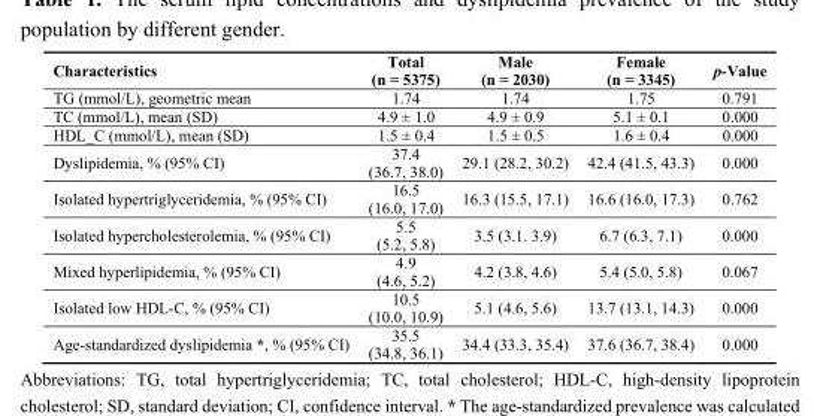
<table><thead><tr><td>Characteristics</td><td>Total (n = 5375)</td><td>Male (n = 2030)</td><td>Female (n = 3345)</td><td>p-Value</td></tr></thead><tbody><tr><td>TG (mmol/L), geometric mean</td><td>1.74</td><td>1.74</td><td>1.75</td><td>0.791</td></tr><tr><td>TC (mmol/L), mean (SD)</td><td>4.9 ± 1.0</td><td>4.9 ± 0.9</td><td>5.1 ± 0.1</td><td>0.000</td></tr><tr><td>HDL_C (mmol/L), mean (SD)</td><td>1.5 ± 0.4</td><td>1.5 ± 0.5</td><td>1.6 ± 0.4</td><td>0.000</td></tr><tr><td>Dyslipidemia, % (95% CI)</td><td>37.4 (36.7, 38.0)</td><td>29.1 (28.2, 30.2)</td><td>42.4 (41.5, 43.3)</td><td>0.000</td></tr><tr><td>Isolated hypertriglyceridemia, % (95% CI)</td><td>16.5 (16.0, 17.0)</td><td>16.3 (15.5, 17.1)</td><td>16.6 (16.0, 17.3)</td><td>0.762</td></tr><tr><td>Isolated hypercholesterolemia, % (95% CI)</td><td>5.5 (5.2, 5.8)</td><td>3.5 (3.1. 3.9)</td><td>6.7 (6.3, 7.1)</td><td>0.000</td></tr><tr><td>Mixed hyperlipidemia, % (95% CI)</td><td>4.9 (4.6, 5.2)</td><td>4.2 (3.8, 4.6)</td><td>5.4 (5.0, 5.8)</td><td>0.067</td></tr><tr><td>Isolated low HDL-C, % (95% CI)</td><td>10.5 (10.0, 10.9)</td><td>5.1 (4.6, 5.6)</td><td>13.7 (13.1, 14.3)</td><td>0.000</td></tr><tr><td>Age-standardized dyslipidemia *, % (95% CI)</td><td>35.5 (34.8, 36.1)</td><td>34.4 (33.3, 35.4)</td><td>37.6 (36.7, 38.4)</td><td>0.000</td></tr></tbody></table>